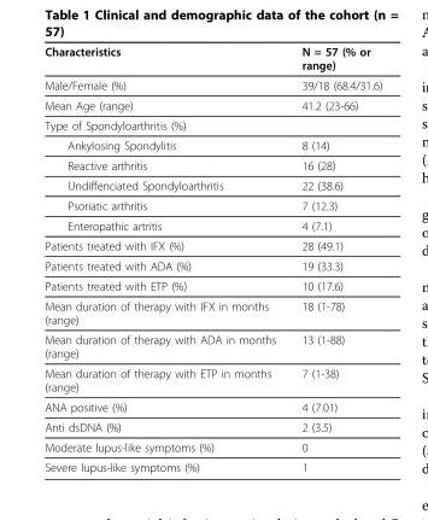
<table><thead><tr><td>Characteristics</td><td>N = 57 (% or range)</td></tr></thead><tbody><tr><td>Male/Female (%)</td><td>39/18 (68.4/31.6)</td></tr><tr><td>Mean Age (range)</td><td>41.2 (23-66)</td></tr><tr><td colspan="2">Type of Spondyloarthritis (%)</td></tr><tr><td>Ankylosing Spondylitis</td><td>8 (14)</td></tr><tr><td>Reactive arthritis</td><td>16 (28)</td></tr><tr><td>Undiffenciated Spondyloarthritis</td><td>22 (38.6)</td></tr><tr><td>Psoriatic arthritis</td><td>7 (12.3)</td></tr><tr><td>Enteropathic artritis</td><td>4 (7.1)</td></tr><tr><td>Patients treated with IFX (%)</td><td>28 (49.1)</td></tr><tr><td>Patients treated with ADA (%)</td><td>19 (33.3)</td></tr><tr><td>Patients treated with ETP (%)</td><td>10 (17.6)</td></tr><tr><td>Mean duration of therapy with IFX in months (range)</td><td>18 (1-78)</td></tr><tr><td>Mean duration of therapy with ADA in months (range)</td><td>13 (1-88)</td></tr><tr><td>Mean duration of therapy with ETP in months (range)</td><td>7 (1-38)</td></tr><tr><td>ANA positive (%)</td><td>4 (7.01)</td></tr><tr><td>Anti dsDNA (%)</td><td>2 (3.5)</td></tr><tr><td>Moderate lupus-like symptoms (%)</td><td>0</td></tr><tr><td>Severe lupus-like symptoms (%)</td><td>1</td></tr></tbody></table>